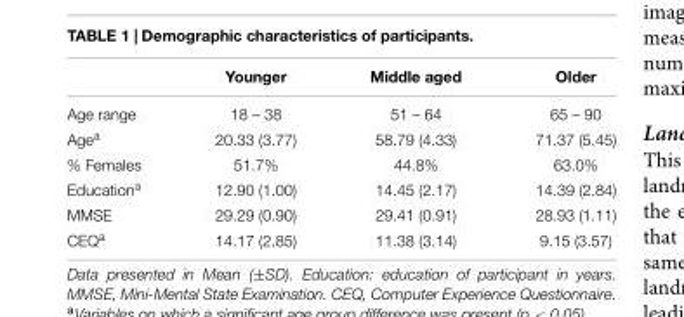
<table><thead><tr><td></td><td>Younger</td><td>Middle aged</td><td>Older</td></tr></thead><tbody><tr><td>Age range</td><td>18 – 38</td><td>51 – 64</td><td>65 – 90</td></tr><tr><td>Age<sup>a</sup></td><td>20.33 (3.77)</td><td>58.79 (4.33)</td><td>71.37 (5.45)</td></tr><tr><td>% Females</td><td>51.7%</td><td>44.8%</td><td>63.0%</td></tr><tr><td>Education<sup>a</sup></td><td>12.90 (1.00)</td><td>14.45 (2.17)</td><td>14.39 (2.84)</td></tr><tr><td>MMSE</td><td>29.29 (0.90)</td><td>29.41 (0.91)</td><td>28.93 (1.11)</td></tr><tr><td>CEQ<sup>a</sup></td><td>14.17 (2.85)</td><td>11.38 (3.14)</td><td>9.15 (3.57)</td></tr></tbody></table>